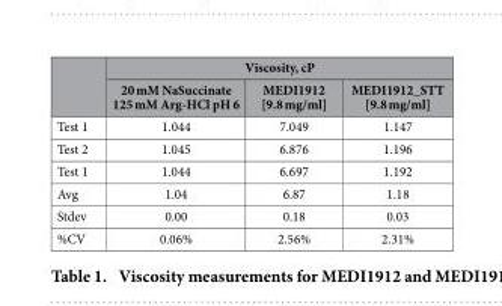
<table><thead><tr><td rowspan="2"></td><td colspan="3">Viscosity, cP</td></tr><tr><td>20 mM NaSuccinate 125 mM Arg-HCl pH 6</td><td>MEDI1912 [9.8 mg/ml]</td><td>MEDI1912_STT [9.8 mg/ml]</td></tr></thead><tbody><tr><td>Test 1</td><td>1.044</td><td>7.049</td><td>1.147</td></tr><tr><td>Test 2</td><td>1.045</td><td>6.876</td><td>1.196</td></tr><tr><td>Test 1</td><td>1.044</td><td>6.697</td><td>1.192</td></tr><tr><td>Avg</td><td>1.04</td><td>6.87</td><td>1.18</td></tr><tr><td>Stdev</td><td>0.00</td><td>0.18</td><td>0.03</td></tr><tr><td>%CV</td><td>0.06%</td><td>2.56%</td><td>2.31%</td></tr></tbody></table>